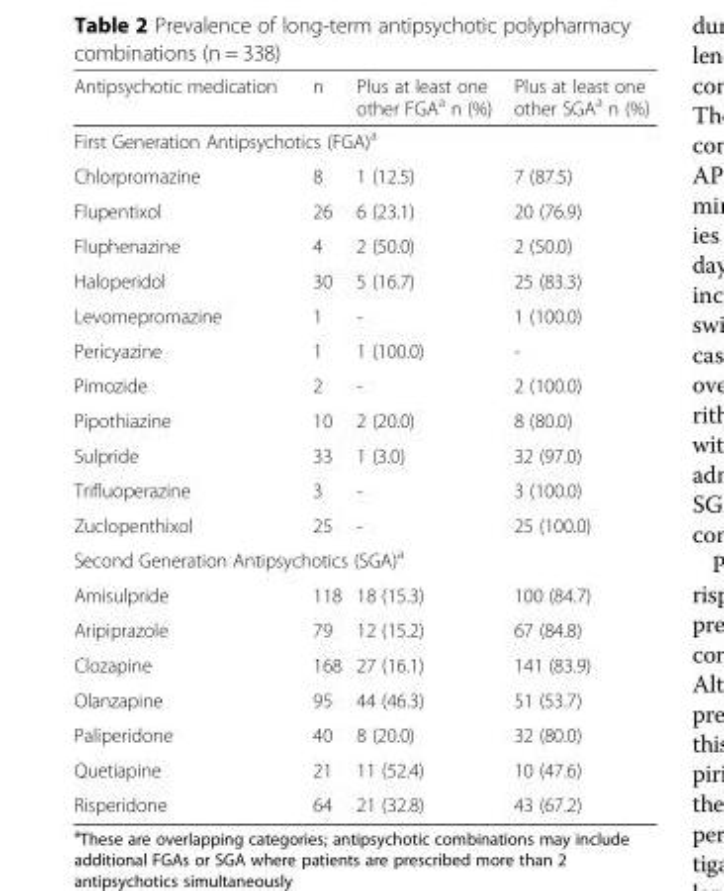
<table><thead><tr><td>Antipsychotic medication</td><td>n</td><td>Plus at least one other FGA<sup>a</sup> n (%)</td><td>Plus at least one other SGA<sup>a</sup> n (%)</td></tr></thead><tbody><tr><td colspan="4">First Generation Antipsychotics (FGA)<sup>a</sup></td></tr><tr><td>Chlorpromazine</td><td>8</td><td>1 (12.5)</td><td>7 (87.5)</td></tr><tr><td>Flupentixol</td><td>26</td><td>6 (23.1)</td><td>20 (76.9)</td></tr><tr><td>Fluphenazine</td><td>4</td><td>2 (50.0)</td><td>2 (50.0)</td></tr><tr><td>Haloperidol</td><td>30</td><td>5 (16.7)</td><td>25 (83.3)</td></tr><tr><td>Levomepromazine</td><td>1</td><td>-</td><td>1 (100.0)</td></tr><tr><td>Pericyazine</td><td>1</td><td>1 (100.0)</td><td>-</td></tr><tr><td>Pimozide</td><td>2</td><td>-</td><td>2 (100.0)</td></tr><tr><td>Pipothiazine</td><td>10</td><td>2 (20.0)</td><td>8 (80.0)</td></tr><tr><td>Sulpride</td><td>33</td><td>1 (3.0)</td><td>32 (97.0)</td></tr><tr><td>Trifluoperazine</td><td>3</td><td>-</td><td>3 (100.0)</td></tr><tr><td>Zuclopenthixol</td><td>25</td><td>-</td><td>25 (100.0)</td></tr><tr><td colspan="4">Second Generation Antipsychotics (SGA)<sup>a</sup></td></tr><tr><td>Amisulpride</td><td>118</td><td>18 (15.3)</td><td>100 (84.7)</td></tr><tr><td>Aripiprazole</td><td>79</td><td>12 (15.2)</td><td>67 (84.8)</td></tr><tr><td>Clozapine</td><td>168</td><td>27 (16.1)</td><td>141 (83.9)</td></tr><tr><td>Olanzapine</td><td>95</td><td>44 (46.3)</td><td>51 (53.7)</td></tr><tr><td>Paliperidone</td><td>40</td><td>8 (20.0)</td><td>32 (80.0)</td></tr><tr><td>Quetiapine</td><td>21</td><td>11 (52.4)</td><td>10 (47.6)</td></tr><tr><td>Risperidone</td><td>64</td><td>21 (32.8)</td><td>43 (67.2)</td></tr></tbody></table>